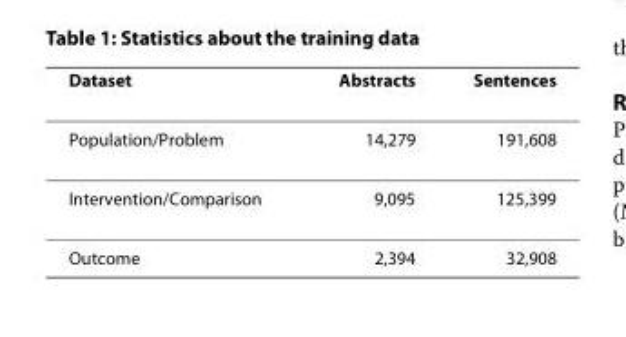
<table><thead><tr><td>Dataset</td><td>Abstracts</td><td>Sentences</td></tr></thead><tbody><tr><td>Population/Problem</td><td>14,279</td><td>191,608</td></tr><tr><td>Intervention/Comparison</td><td>9,095</td><td>125,399</td></tr><tr><td>Outcome</td><td>2,394</td><td>32,908</td></tr></tbody></table>